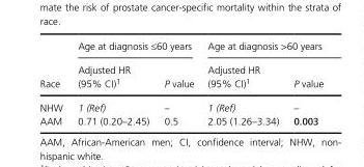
<table><thead><tr><td rowspan="2">Race</td><td colspan="2">Age at diagnosis ≤60 years</td><td colspan="2">Age at diagnosis &gt;60 years</td></tr><tr><td>Adjusted HR (95% CI)1</td><td>P value</td><td>Adjusted HR (95% CI)1</td><td>P value</td></tr></thead><tbody><tr><td>NHW</td><td>1 (Ref)</td><td>–</td><td>1 (Ref)</td><td>–</td></tr><tr><td>AAM</td><td>0.71 (0.20–2.45)</td><td>0.5</td><td>2.05 (1.26–3.34)</td><td>0.003</td></tr></tbody></table>